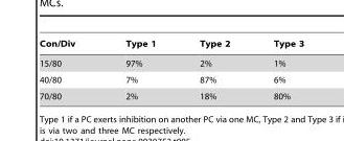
<table><thead><tr><td>Con/Div</td><td>Type 1</td><td>Type 2</td><td>Type 3</td></tr></thead><tbody><tr><td>15/80</td><td>97%</td><td>2%</td><td>1%</td></tr><tr><td>40/80</td><td>7%</td><td>87%</td><td>6%</td></tr><tr><td>70/80</td><td>2%</td><td>18%</td><td>80%</td></tr></tbody></table>